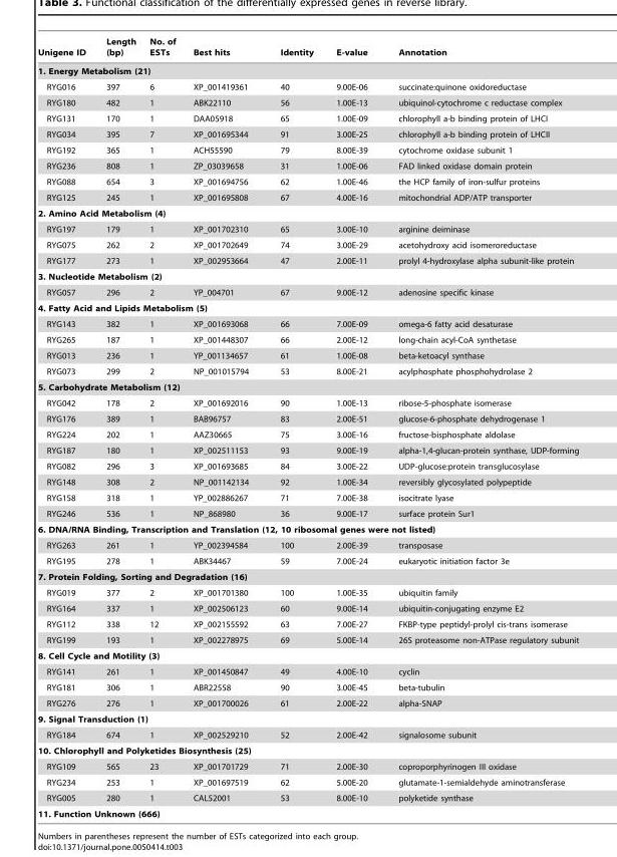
<table><thead><tr><td>Unigene ID</td><td>Length (bp)</td><td>No. of ESTs</td><td>Best hits</td><td>Identity</td><td>E-value</td><td>Annotation</td></tr></thead><tbody><tr><td colspan="7">1. Energy Metabolism (21)</td></tr><tr><td>RYG016</td><td>397</td><td>6</td><td>XP_001419361</td><td>40</td><td>9.00E-06</td><td>succinate:quinone oxidoreductase</td></tr><tr><td>RYG180</td><td>482</td><td>1</td><td>ABK22110</td><td>56</td><td>1.00E-13</td><td>ubiquinol-cytochrome c reductase complex</td></tr><tr><td>RYG131</td><td>170</td><td>1</td><td>DAA05918</td><td>65</td><td>1.00E-09</td><td>chlorophyll a-b binding protein of LHCI</td></tr><tr><td>RYG034</td><td>395</td><td>7</td><td>XP_001695344</td><td>91</td><td>3.00E-25</td><td>chlorophyll a-b binding protein of LHCII</td></tr><tr><td>RYG192</td><td>365</td><td>1</td><td>ACH55590</td><td>79</td><td>8.00E-39</td><td>cytochrome oxidase subunit 1</td></tr><tr><td>RYG236</td><td>808</td><td>1</td><td>ZP_03039658</td><td>31</td><td>1.00E-06</td><td>FAD linked oxidase domain protein</td></tr><tr><td>RYG088</td><td>654</td><td>3</td><td>XP_001694756</td><td>62</td><td>1.00E-46</td><td>the HCP family of iron-sulfur proteins</td></tr><tr><td>RYG125</td><td>245</td><td>1</td><td>XP_001695808</td><td>67</td><td>4.00E-16</td><td>mitochondrial ADP/ATP transporter</td></tr><tr><td colspan="7">2. Amino Acid Metabolism (4)</td></tr><tr><td>RYG197</td><td>179</td><td>1</td><td>XP_001702310</td><td>65</td><td>3.00E-10</td><td>arginine deiminase</td></tr><tr><td>RYG075</td><td>262</td><td>2</td><td>XP_001702649</td><td>74</td><td>3.00E-29</td><td>acetohydroxy acid isomeroreductase</td></tr><tr><td>RYG177</td><td>273</td><td>1</td><td>XP_002953664</td><td>47</td><td>2.00E-11</td><td>prolyl 4-hydroxylase alpha subunit-like protein</td></tr><tr><td colspan="7">3. Nucleotide Metabolism (2)</td></tr><tr><td>RYG057</td><td>296</td><td>2</td><td>YP_004701</td><td>67</td><td>9.00E-12</td><td>adenosine specific kinase</td></tr><tr><td colspan="7">4. Fatty Acid and Lipids Metabolism (5)</td></tr><tr><td>RYG143</td><td>382</td><td>1</td><td>XP_001693068</td><td>66</td><td>7.00E-09</td><td>omega-6 fatty acid desaturase</td></tr><tr><td>RYG265</td><td>187</td><td>1</td><td>XP_001448307</td><td>66</td><td>2.00E-12</td><td>long-chain acyl-CoA synthetase</td></tr><tr><td>RYG013</td><td>236</td><td>1</td><td>YP_001134657</td><td>61</td><td>1.00E-08</td><td>beta-ketoacyl synthase</td></tr><tr><td>RYG073</td><td>299</td><td>2</td><td>NP_001015794</td><td>53</td><td>8.00E-21</td><td>acylphosphate phosphohydrolase 2</td></tr><tr><td colspan="7">5. Carbohydrate Metabolism (12)</td></tr><tr><td>RYG042</td><td>178</td><td>2</td><td>XP_001692016</td><td>90</td><td>1.00E-13</td><td>ribose-5-phosphate isomerase</td></tr><tr><td>RYG176</td><td>389</td><td>1</td><td>BAB96757</td><td>83</td><td>2.00E-51</td><td>glucose-6-phosphate dehydrogenase 1</td></tr><tr><td>RYG224</td><td>202</td><td>1</td><td>AAZ30665</td><td>75</td><td>3.00E-16</td><td>fructose-bisphosphate aldolase</td></tr><tr><td>RYG187</td><td>180</td><td>1</td><td>XP_002511153</td><td>93</td><td>9.00E-19</td><td>alpha-1,4-glucan-protein synthase, UDP-forming</td></tr><tr><td>RYG082</td><td>296</td><td>3</td><td>XP_001693685</td><td>84</td><td>3.00E-22</td><td>UDP-glucose:protein transglucosylase</td></tr><tr><td>RYG148</td><td>308</td><td>2</td><td>NP_001142134</td><td>92</td><td>1.00E-34</td><td>reversibly glycosylated polypeptide</td></tr><tr><td>RYG158</td><td>318</td><td>1</td><td>YP_002886267</td><td>71</td><td>7.00E-38</td><td>isocitrate lyase</td></tr><tr><td>RYG246</td><td>536</td><td>1</td><td>NP_868980</td><td>36</td><td>9.00E-17</td><td>surface protein Sur1</td></tr><tr><td colspan="7">6. DNA/RNA Binding, Transcription and Translation (12, 10 ribosomal genes were not listed)</td></tr><tr><td>RYG263</td><td>261</td><td>1</td><td>YP_002394584</td><td>100</td><td>2.00E-39</td><td>transposase</td></tr><tr><td>RYG195</td><td>278</td><td>1</td><td>ABK34467</td><td>59</td><td>7.00E-24</td><td>eukaryotic initiation factor 3e</td></tr><tr><td colspan="7">7. Protein Folding, Sorting and Degradation (16)</td></tr><tr><td>RYG019</td><td>377</td><td>2</td><td>XP_001701380</td><td>100</td><td>1.00E-35</td><td>ubiquitin family</td></tr><tr><td>RYG164</td><td>337</td><td>1</td><td>XP_002506123</td><td>60</td><td>9.00E-14</td><td>ubiquitin-conjugating enzyme E2</td></tr><tr><td>RYG112</td><td>338</td><td>12</td><td>XP_002155592</td><td>63</td><td>7.00E-27</td><td>FKBP-type peptidyl-prolyl cis-trans isomerase</td></tr><tr><td>RYG199</td><td>193</td><td>1</td><td>XP_002278975</td><td>69</td><td>5.00E-14</td><td>26S proteasome non-ATPase regulatory subunit</td></tr><tr><td colspan="7">8. Cell Cycle and Motility (3)</td></tr><tr><td>RYG141</td><td>261</td><td>1</td><td>XP_001450847</td><td>49</td><td>4.00E-10</td><td>cyclin</td></tr><tr><td>RYG181</td><td>306</td><td>1</td><td>ABR22558</td><td>90</td><td>3.00E-45</td><td>beta-tubulin</td></tr><tr><td>RYG276</td><td>276</td><td>1</td><td>XP_001700026</td><td>61</td><td>2.00E-22</td><td>alpha-SNAP</td></tr><tr><td colspan="7">9. Signal Transduction (1)</td></tr><tr><td>RYG184</td><td>674</td><td>1</td><td>XP_002529210</td><td>52</td><td>2.00E-42</td><td>signalosome subunit</td></tr><tr><td colspan="7">10. Chlorophyll and Polyketides Biosynthesis (25)</td></tr><tr><td>RYG109</td><td>565</td><td>23</td><td>XP_001701729</td><td>71</td><td>2.00E-30</td><td>coproporphyrinogen III oxidase</td></tr><tr><td>RYG234</td><td>253</td><td>1</td><td>XP_001697519</td><td>62</td><td>5.00E-20</td><td>glutamate-1-semialdehyde aminotransferase</td></tr><tr><td>RYG005</td><td>280</td><td>1</td><td>CAL52001</td><td>53</td><td>8.00E-10</td><td>polyketide synthase</td></tr><tr><td colspan="7">11. Function Unknown (666)</td></tr></tbody></table>